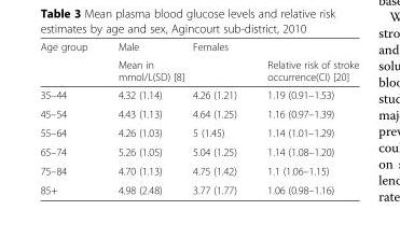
<table><thead><tr><td rowspan="2">Age group</td><td>Male</td><td>Females</td><td rowspan="2">Relative risk of stroke occurrence(CI) [20]</td></tr><tr><td colspan="2">Mean in mmol/L(SD) [8]</td></tr></thead><tbody><tr><td>35–44</td><td>4.32 (1.14)</td><td>4.26 (1.21)</td><td>1.19 (0.91–1.53)</td></tr><tr><td>45–54</td><td>4.43 (1.13)</td><td>4.64 (1.25)</td><td>1.16 (0.97–1.39)</td></tr><tr><td>55–64</td><td>4.26 (1.03)</td><td>5 (1.45)</td><td>1.14 (1.01–1.29)</td></tr><tr><td>65–74</td><td>5.26 (1.05)</td><td>5.04 (1.25)</td><td>1.14 (1.08–1.20)</td></tr><tr><td>75–84</td><td>4.70 (1.13)</td><td>4.75 (1.42)</td><td>1.1 (1.06–1.15)</td></tr><tr><td>85+</td><td>4.98 (2.48)</td><td>3.77 (1.77)</td><td>1.06 (0.98–1.16)</td></tr></tbody></table>